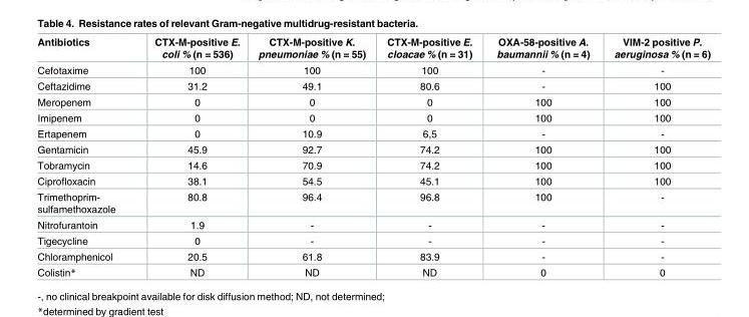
<table><thead><tr><td>Antibiotics</td><td>CTX-M-positive E. coli % (n = 536)</td><td>CTX-M-positive K. pneumoniae % (n = 55)</td><td>CTX-M-positive E. cloacae % (n = 31)</td><td>OXA-58-positive A. baumannii % (n = 4)</td><td>VIM-2 positive P. aeruginosa % (n = 6)</td></tr></thead><tbody><tr><td>Cefotaxime</td><td>100</td><td>100</td><td>100</td><td>-</td><td>-</td></tr><tr><td>Ceftazidime</td><td>31.2</td><td>49.1</td><td>80.6</td><td>-</td><td>100</td></tr><tr><td>Meropenem</td><td>0</td><td>0</td><td>0</td><td>100</td><td>100</td></tr><tr><td>Imipenem</td><td>0</td><td>0</td><td>0</td><td>100</td><td>100</td></tr><tr><td>Ertapenem</td><td>0</td><td>10.9</td><td>6,5</td><td>-</td><td>-</td></tr><tr><td>Gentamicin</td><td>45.9</td><td>92.7</td><td>74.2</td><td>100</td><td>100</td></tr><tr><td>Tobramycin</td><td>14.6</td><td>70.9</td><td>74.2</td><td>100</td><td>100</td></tr><tr><td>Ciprofloxacin</td><td>38.1</td><td>54.5</td><td>45.1</td><td>100</td><td>100</td></tr><tr><td>Trimethoprim- sulfamethoxazole</td><td>80.8</td><td>96.4</td><td>96.8</td><td>100</td><td>-</td></tr><tr><td>Nitrofurantoin</td><td>1.9</td><td>-</td><td>-</td><td>-</td><td>-</td></tr><tr><td>Tigecycline</td><td>0</td><td>-</td><td>-</td><td>-</td><td>-</td></tr><tr><td>Chloramphenicol</td><td>20.5</td><td>61.8</td><td>83.9</td><td>-</td><td>-</td></tr><tr><td>Colistin*</td><td>ND</td><td>ND</td><td>ND</td><td>0</td><td>0</td></tr></tbody></table>